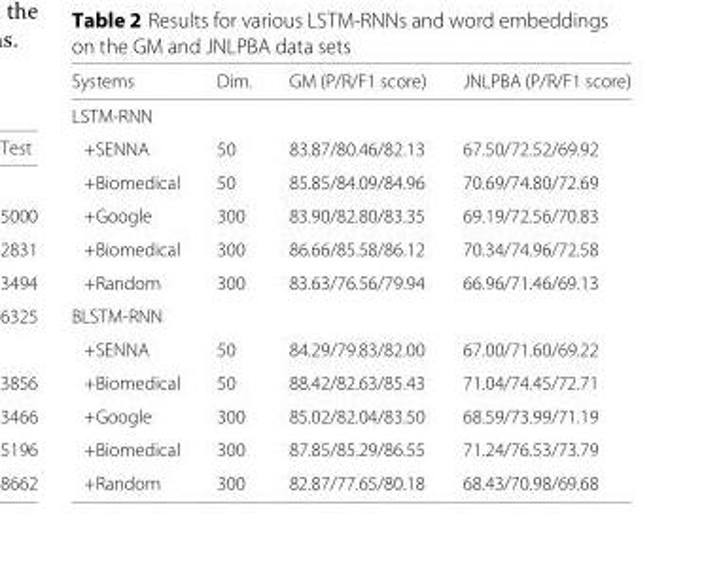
<table><thead><tr><td>Systems</td><td>Dim.</td><td>GM (P/R/F1 score)</td><td>JNLPBA (P/R/F1 score)</td></tr></thead><tbody><tr><td colspan="4">LSTM-RNN</td></tr><tr><td>+SENNA</td><td>50</td><td>83.87/80.46/82.13</td><td>67.50/72.52/69.92</td></tr><tr><td>+Biomedical</td><td>50</td><td>85.85/84.09/84.96</td><td>70.69/74.80/72.69</td></tr><tr><td>+Google</td><td>300</td><td>83.90/82.80/83.35</td><td>69.19/72.56/70.83</td></tr><tr><td>+Biomedical</td><td>300</td><td>86.66/85.58/86.12</td><td>70.34/74.96/72.58</td></tr><tr><td>+Random</td><td>300</td><td>83.63/76.56/79.94</td><td>66.96/71.46/69.13</td></tr><tr><td colspan="4">BLSTM-RNN</td></tr><tr><td>+SENNA</td><td>50</td><td>84.29/79.83/82.00</td><td>67.00/71.60/69.22</td></tr><tr><td>+Biomedical</td><td>50</td><td>88.42/82.63/85.43</td><td>71.04/74.45/72.71</td></tr><tr><td>+Google</td><td>300</td><td>85.02/82.04/83.50</td><td>68.59/73.99/71.19</td></tr><tr><td>+Biomedical</td><td>300</td><td>87.85/85.29/86.55</td><td>71.24/76.53/73.79</td></tr><tr><td>+Random</td><td>300</td><td>82.87/77.65/80.18</td><td>68.43/70.98/69.68</td></tr></tbody></table>